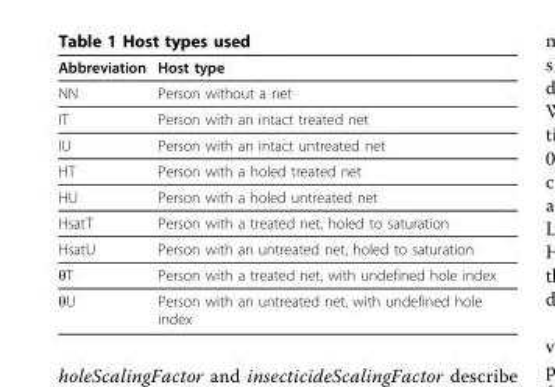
<table><thead><tr><td>Abbreviation</td><td>Host type</td></tr></thead><tbody><tr><td>NN</td><td>Person without a net</td></tr><tr><td>IT</td><td>Person with an intact treated net</td></tr><tr><td>IU</td><td>Person with an intact untreated net</td></tr><tr><td>HT</td><td>Person with a holed treated net</td></tr><tr><td>HU</td><td>Person with a holed untreated net</td></tr><tr><td>HsatT</td><td>Person with a treated net, holed to saturation</td></tr><tr><td>HsatU</td><td>Person with an untreated net, holed to saturation</td></tr><tr><td>θT</td><td>Person with a treated net, with undefined hole index</td></tr><tr><td>θU</td><td>Person with an untreated net, with undefined hole index</td></tr></tbody></table>